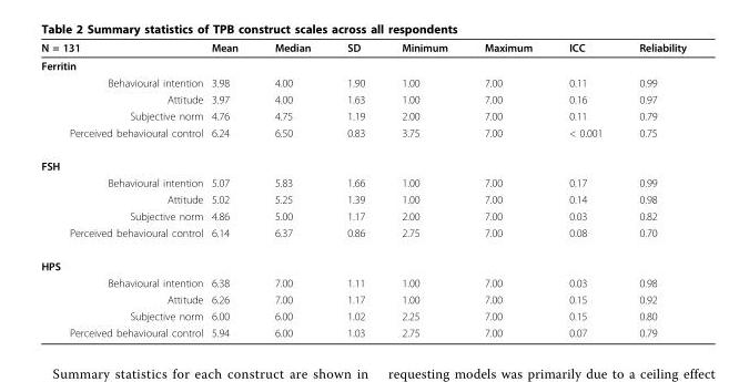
<table><thead><tr><td>N = 131</td><td>Mean</td><td>Median</td><td>SD</td><td>Minimum</td><td>Maximum</td><td>ICC</td><td>Reliability</td></tr></thead><tbody><tr><td colspan="8">Ferritin</td></tr><tr><td>Behavioural intention</td><td>3.98</td><td>4.00</td><td>1.90</td><td>1.00</td><td>7.00</td><td>0.11</td><td>0.99</td></tr><tr><td>Attitude</td><td>3.97</td><td>4.00</td><td>1.63</td><td>1.00</td><td>7.00</td><td>0.16</td><td>0.97</td></tr><tr><td>Subjective norm</td><td>4.76</td><td>4.75</td><td>1.19</td><td>2.00</td><td>7.00</td><td>0.11</td><td>0.79</td></tr><tr><td>Perceived behavioural control</td><td>6.24</td><td>6.50</td><td>0.83</td><td>3.75</td><td>7.00</td><td>&lt; 0.001</td><td>0.75</td></tr><tr><td colspan="8">FSH</td></tr><tr><td>Behavioural intention</td><td>5.07</td><td>5.83</td><td>1.66</td><td>1.00</td><td>7.00</td><td>0.17</td><td>0.99</td></tr><tr><td>Attitude</td><td>5.02</td><td>5.25</td><td>1.39</td><td>1.00</td><td>7.00</td><td>0.14</td><td>0.98</td></tr><tr><td>Subjective norm</td><td>4.86</td><td>5.00</td><td>1.17</td><td>2.00</td><td>7.00</td><td>0.03</td><td>0.82</td></tr><tr><td>Perceived behavioural control</td><td>6.14</td><td>6.37</td><td>0.86</td><td>2.75</td><td>7.00</td><td>0.08</td><td>0.70</td></tr><tr><td colspan="8">HPS</td></tr><tr><td>Behavioural intention</td><td>6.38</td><td>7.00</td><td>1.11</td><td>1.00</td><td>7.00</td><td>0.03</td><td>0.98</td></tr><tr><td>Attitude</td><td>6.26</td><td>7.00</td><td>1.17</td><td>1.00</td><td>7.00</td><td>0.15</td><td>0.92</td></tr><tr><td>Subjective norm</td><td>6.00</td><td>6.00</td><td>1.02</td><td>2.25</td><td>7.00</td><td>0.15</td><td>0.80</td></tr><tr><td>Perceived behavioural control</td><td>5.94</td><td>6.00</td><td>1.03</td><td>2.75</td><td>7.00</td><td>0.07</td><td>0.79</td></tr></tbody></table>